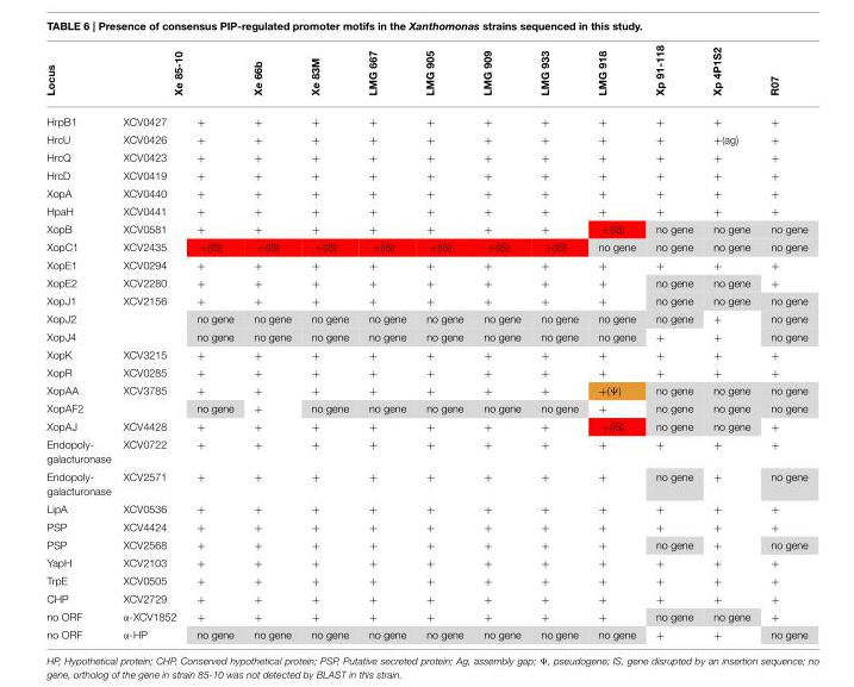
<table><thead><tr><td rowspan="2">Locus HrpB1</td><td colspan="2">Xe 85-10</td><td rowspan="2">Xe 66b +</td><td rowspan="2">Xe 83M +</td><td rowspan="2">LMG 667 +</td><td rowspan="2">LMG 905 +</td><td rowspan="2">LMG 909 +</td><td rowspan="2">LMG 933 +</td><td rowspan="2">LMG 918 +</td><td rowspan="2">Xp 91-118 +</td><td rowspan="2">Xp 4P1S2 +</td><td rowspan="2">R07 +</td></tr><tr><td>XCV0427</td><td>+</td></tr></thead><tbody><tr><td>HrcU</td><td>XCV0426</td><td>+</td><td>+</td><td>+</td><td>+</td><td>+</td><td>+</td><td>+</td><td>+</td><td>+</td><td>+(ag)</td><td>+</td></tr><tr><td>HrcQ</td><td>XCV0423</td><td>+</td><td>+</td><td>+</td><td>+</td><td>+</td><td>+</td><td>+</td><td>+</td><td>+</td><td>+</td><td>+</td></tr><tr><td>HrcD</td><td>XCV0419</td><td>+</td><td>+</td><td>+</td><td>+</td><td>+</td><td>+</td><td>+</td><td>+</td><td>+</td><td>+</td><td>+</td></tr><tr><td>XopA</td><td>XCV0440</td><td>+</td><td>+</td><td>+</td><td>+</td><td>+</td><td>+</td><td>+</td><td>+</td><td>+</td><td>+</td><td>+</td></tr><tr><td>HpaH</td><td>XCV0441</td><td>+</td><td>+</td><td>+</td><td>+</td><td>+</td><td>+</td><td>+</td><td>+</td><td>+</td><td>+</td><td>+</td></tr><tr><td>XopB</td><td>XCV0581</td><td>+</td><td>+</td><td>+</td><td>+</td><td>+</td><td>+</td><td>+</td><td>+(IS)</td><td>no gene</td><td>no gene</td><td>no gene</td></tr><tr><td>XopC1</td><td>XCV2435</td><td>+(IS)</td><td>+(IS)</td><td>+(IS)</td><td>+(IS)</td><td>+(IS)</td><td>+(IS)</td><td>+(IS)</td><td>no gene</td><td>no gene</td><td>no gene</td><td>no gene</td></tr><tr><td>XopE1</td><td>XCV0294</td><td>+</td><td>+</td><td>+</td><td>+</td><td>+</td><td>+</td><td>+</td><td>+</td><td>+</td><td>+</td><td>+</td></tr><tr><td>XopE2</td><td>XCV2280</td><td>+</td><td>+</td><td>+</td><td>+</td><td>+</td><td>+</td><td>+</td><td>+</td><td>no gene</td><td>no gene</td><td>+</td></tr><tr><td>XopJ1</td><td>XCV2156</td><td>+</td><td>+</td><td>+</td><td>+</td><td>+</td><td>+</td><td>+</td><td>+</td><td>no gene</td><td>no gene</td><td>no gene</td></tr><tr><td>XopJ2</td><td></td><td>no gene</td><td>no gene</td><td>no gene</td><td>no gene</td><td>no gene</td><td>no gene</td><td>no gene</td><td>no gene</td><td>no gene</td><td>+</td><td>no gene</td></tr><tr><td>XopJ4</td><td></td><td>no gene</td><td>no gene</td><td>no gene</td><td>no gene</td><td>no gene</td><td>no gene</td><td>no gene</td><td>no gene</td><td>+</td><td>+</td><td>no gene</td></tr><tr><td>XopK</td><td>XCV3215</td><td>+</td><td>+</td><td>+</td><td>+</td><td>+</td><td>+</td><td>+</td><td>+</td><td>+</td><td>+</td><td>+</td></tr><tr><td>XopR</td><td>XCV0285</td><td>+</td><td>+</td><td>+</td><td>+</td><td>+</td><td>+</td><td>+</td><td>+</td><td>+</td><td>+</td><td>+</td></tr><tr><td>XopAA</td><td>XCV3785</td><td>+</td><td>+</td><td>+</td><td>+</td><td>+</td><td>+</td><td>+</td><td>+(Ψ)</td><td>no gene</td><td>no gene</td><td>no gene</td></tr><tr><td>XopAF2</td><td></td><td>no gene</td><td>+</td><td>no gene</td><td>no gene</td><td>no gene</td><td>no gene</td><td>no gene</td><td>+</td><td>no gene</td><td>no gene</td><td>no gene</td></tr><tr><td>XopAJ</td><td>XCV4428</td><td>+</td><td>+</td><td>+</td><td>+</td><td>+</td><td>+</td><td>+</td><td>+(IS)</td><td>no gene</td><td>no gene</td><td>+</td></tr><tr><td>Endopoly- galacturonase</td><td>XCV0722</td><td>+</td><td>+</td><td>+</td><td>+</td><td>+</td><td>+</td><td>+</td><td>+</td><td>+</td><td>+</td><td>+</td></tr><tr><td>Endopoly- galacturonase</td><td>XCV2571</td><td>+</td><td>+</td><td>+</td><td>+</td><td>+</td><td>+</td><td>+</td><td>+</td><td>no gene</td><td>+</td><td>no gene</td></tr><tr><td>LipA</td><td>XCV0536</td><td>+</td><td>+</td><td>+</td><td>+</td><td>+</td><td>+</td><td>+</td><td>+</td><td>+</td><td>+</td><td>+</td></tr><tr><td>PSP</td><td>XCV4424</td><td>+</td><td>+</td><td>+</td><td>+</td><td>+</td><td>+</td><td>+</td><td>+</td><td>+</td><td>+</td><td>+</td></tr><tr><td>PSP</td><td>XCV2568</td><td>+</td><td>+</td><td>+</td><td>+</td><td>+</td><td>+</td><td>+</td><td>+</td><td>no gene</td><td>+</td><td>no gene</td></tr><tr><td>YapH</td><td>XCV2103</td><td>+</td><td>+</td><td>+</td><td>+</td><td>+</td><td>+</td><td>+</td><td>+</td><td>+</td><td>+</td><td>+</td></tr><tr><td>TrpE</td><td>XCV0505</td><td>+</td><td>+</td><td>+</td><td>+</td><td>+</td><td>+</td><td>+</td><td>+</td><td>+</td><td>+</td><td>+</td></tr><tr><td>CHP</td><td>XCV2729</td><td>+</td><td>+</td><td>+</td><td>+</td><td>+</td><td>+</td><td>+</td><td>+</td><td>+</td><td>+</td><td>+</td></tr><tr><td>no ORF</td><td>α-XCV1852</td><td>+</td><td>+</td><td>+</td><td>+</td><td>+</td><td>+</td><td>+</td><td>+</td><td>no gene</td><td>no gene</td><td>+</td></tr><tr><td>no ORF</td><td>α-HP</td><td>no gene</td><td>no gene</td><td>no gene</td><td>no gene</td><td>no gene</td><td>no gene</td><td>no gene</td><td>no gene</td><td>+</td><td>+</td><td>no gene</td></tr></tbody></table>